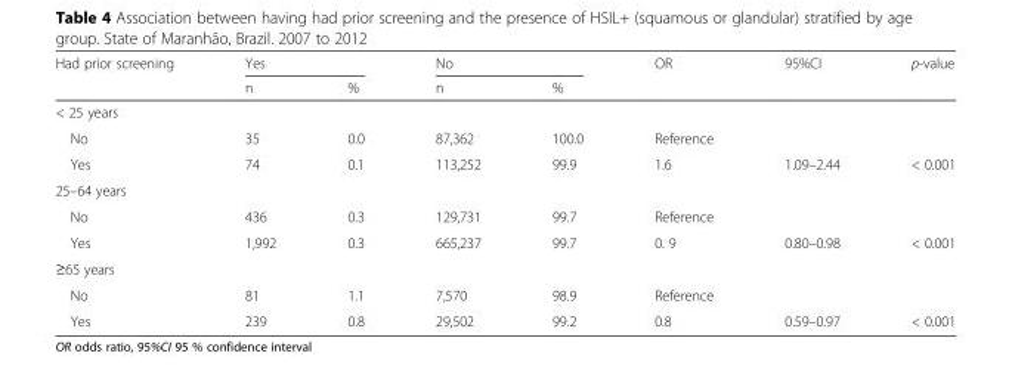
<table><thead><tr><td rowspan="2">Had prior screening</td><td colspan="2">Yes</td><td colspan="2">No</td><td rowspan="2">OR</td><td rowspan="2">95%CI</td><td rowspan="2">p-value</td></tr><tr><td>n</td><td>%</td><td>n</td><td>%</td></tr></thead><tbody><tr><td colspan="8">&lt; 25 years</td></tr><tr><td>No</td><td>35</td><td>0.0</td><td>87,362</td><td>100.0</td><td>Reference</td><td></td><td></td></tr><tr><td>Yes</td><td>74</td><td>0.1</td><td>113,252</td><td>99.9</td><td>1.6</td><td>1.09–2.44</td><td>&lt; 0.001</td></tr><tr><td colspan="8">25–64 years</td></tr><tr><td>No</td><td>436</td><td>0.3</td><td>129,731</td><td>99.7</td><td>Reference</td><td></td><td></td></tr><tr><td>Yes</td><td>1,992</td><td>0.3</td><td>665,237</td><td>99.7</td><td>0. 9</td><td>0.80–0.98</td><td>&lt; 0.001</td></tr><tr><td colspan="8">≥65 years</td></tr><tr><td>No</td><td>81</td><td>1.1</td><td>7,570</td><td>98.9</td><td>Reference</td><td></td><td></td></tr><tr><td>Yes</td><td>239</td><td>0.8</td><td>29,502</td><td>99.2</td><td>0.8</td><td>0.59–0.97</td><td>&lt; 0.001</td></tr></tbody></table>